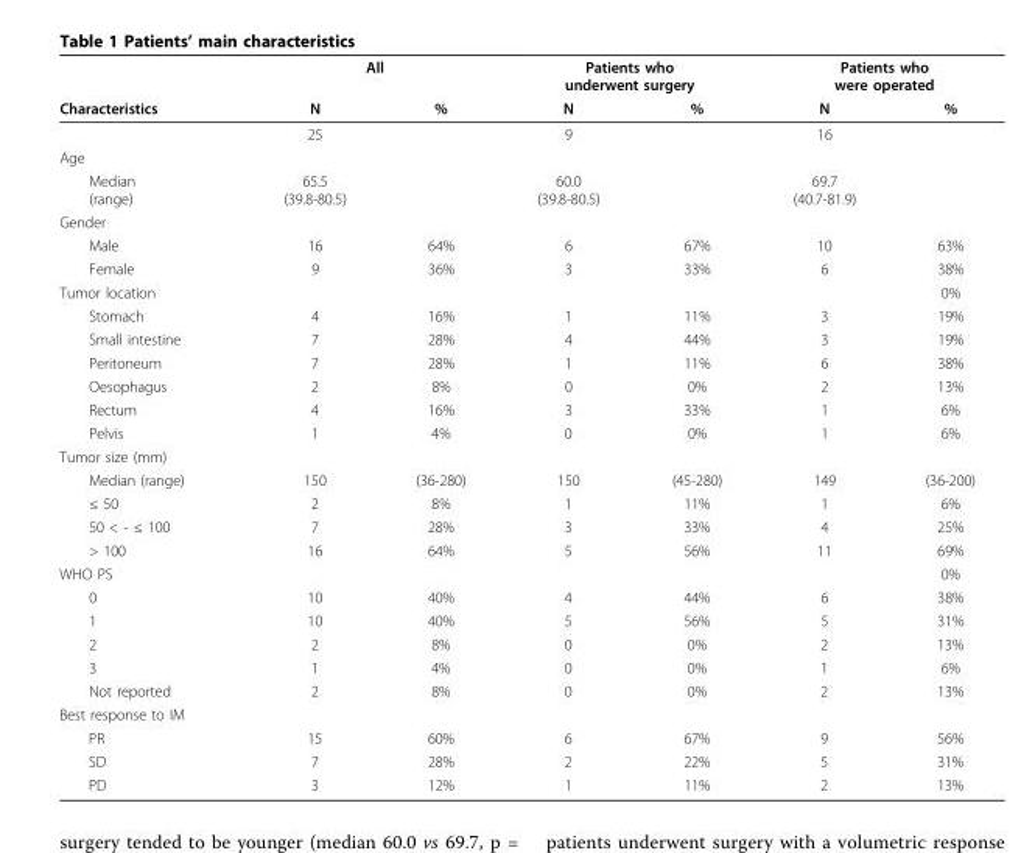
<table><thead><tr><td rowspan="2">Characteristics</td><td colspan="2">All</td><td colspan="2">Patients who underwent surgery</td><td colspan="2">Patients who were operated</td></tr><tr><td>N</td><td>%</td><td>N</td><td>%</td><td>N</td><td>%</td></tr></thead><tbody><tr><td></td><td>25</td><td></td><td>9</td><td></td><td>16</td><td></td></tr><tr><td colspan="7">Age</td></tr><tr><td>Median (range)</td><td>65.5 (39.8-80.5)</td><td></td><td>60.0 (39.8-80.5)</td><td></td><td>69.7 (40.7-81.9)</td><td></td></tr><tr><td colspan="7">Gender</td></tr><tr><td>Male</td><td>16</td><td>64%</td><td>6</td><td>67%</td><td>10</td><td>63%</td></tr><tr><td>Female</td><td>9</td><td>36%</td><td>3</td><td>33%</td><td>6</td><td>38%</td></tr><tr><td>Tumor location</td><td></td><td></td><td></td><td></td><td></td><td>0%</td></tr><tr><td>Stomach</td><td>4</td><td>16%</td><td>1</td><td>11%</td><td>3</td><td>19%</td></tr><tr><td>Small intestine</td><td>7</td><td>28%</td><td>4</td><td>44%</td><td>3</td><td>19%</td></tr><tr><td>Peritoneum</td><td>7</td><td>28%</td><td>1</td><td>11%</td><td>6</td><td>38%</td></tr><tr><td>Oesophagus</td><td>2</td><td>8%</td><td>0</td><td>0%</td><td>2</td><td>13%</td></tr><tr><td>Rectum</td><td>4</td><td>16%</td><td>3</td><td>33%</td><td>1</td><td>6%</td></tr><tr><td>Pelvis</td><td>1</td><td>4%</td><td>0</td><td>0%</td><td>1</td><td>6%</td></tr><tr><td colspan="7">Tumor size (mm)</td></tr><tr><td>Median (range)</td><td>150</td><td>(36-280)</td><td>150</td><td>(45-280)</td><td>149</td><td>(36-200)</td></tr><tr><td>≤ 50</td><td>2</td><td>8%</td><td>1</td><td>11%</td><td>1</td><td>6%</td></tr><tr><td>50 &lt; - ≤ 100</td><td>7</td><td>28%</td><td>3</td><td>33%</td><td>4</td><td>25%</td></tr><tr><td>&gt; 100</td><td>16</td><td>64%</td><td>5</td><td>56%</td><td>11</td><td>69%</td></tr><tr><td>WHO PS</td><td></td><td></td><td></td><td></td><td></td><td>0%</td></tr><tr><td>0</td><td>10</td><td>40%</td><td>4</td><td>44%</td><td>6</td><td>38%</td></tr><tr><td>1</td><td>10</td><td>40%</td><td>5</td><td>56%</td><td>5</td><td>31%</td></tr><tr><td>2</td><td>2</td><td>8%</td><td>0</td><td>0%</td><td>2</td><td>13%</td></tr><tr><td>3</td><td>1</td><td>4%</td><td>0</td><td>0%</td><td>1</td><td>6%</td></tr><tr><td>Not reported</td><td>2</td><td>8%</td><td>0</td><td>0%</td><td>2</td><td>13%</td></tr><tr><td colspan="7">Best response to IM</td></tr><tr><td>PR</td><td>15</td><td>60%</td><td>6</td><td>67%</td><td>9</td><td>56%</td></tr><tr><td>SD</td><td>7</td><td>28%</td><td>2</td><td>22%</td><td>5</td><td>31%</td></tr><tr><td>PD</td><td>3</td><td>12%</td><td>1</td><td>11%</td><td>2</td><td>13%</td></tr></tbody></table>